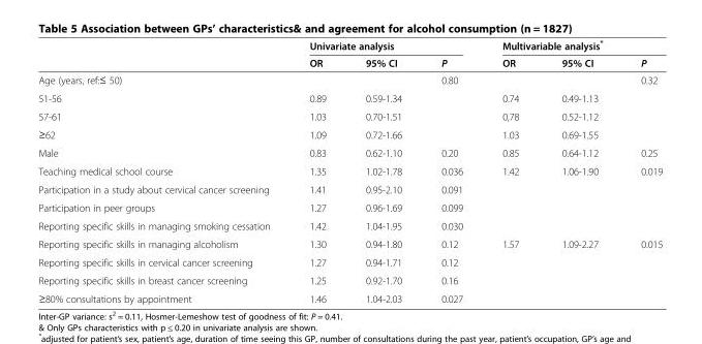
<table><thead><tr><td rowspan="2"></td><td colspan="3">Univariate analysis</td><td colspan="3">Multivariable analysis*</td></tr><tr><td>OR</td><td>95% CI</td><td>P</td><td>OR</td><td>95% CI</td><td>P</td></tr></thead><tbody><tr><td>Age (years, ref:≤ 50)</td><td></td><td></td><td>0.80</td><td></td><td></td><td>0.32</td></tr><tr><td>51-56</td><td>0.89</td><td>0.59-1.34</td><td></td><td>0.74</td><td>0.49-1.13</td><td></td></tr><tr><td>57-61</td><td>1.03</td><td>0.70-1.51</td><td></td><td>0,78</td><td>0.52-1.12</td><td></td></tr><tr><td>≥62</td><td>1.09</td><td>0.72-1.66</td><td></td><td>1.03</td><td>0.69-1.55</td><td></td></tr><tr><td>Male</td><td>0.83</td><td>0.62-1.10</td><td>0.20</td><td>0.85</td><td>0.64-1.12</td><td>0.25</td></tr><tr><td>Teaching medical school course</td><td>1.35</td><td>1.02-1.78</td><td>0.036</td><td>1.42</td><td>1.06-1.90</td><td>0.019</td></tr><tr><td>Participation in a study about cervical cancer screening</td><td>1.41</td><td>0.95-2.10</td><td>0.091</td><td></td><td></td><td></td></tr><tr><td>Participation in peer groups</td><td>1.27</td><td>0.96-1.69</td><td>0.099</td><td></td><td></td><td></td></tr><tr><td>Reporting specific skills in managing smoking cessation</td><td>1.42</td><td>1.04-1.95</td><td>0.030</td><td></td><td></td><td></td></tr><tr><td>Reporting specific skills in managing alcoholism</td><td>1.30</td><td>0.94-1.80</td><td>0.12</td><td>1.57</td><td>1.09-2.27</td><td>0.015</td></tr><tr><td>Reporting specific skills in cervical cancer screening</td><td>1.27</td><td>0.94-1.71</td><td>0.12</td><td></td><td></td><td></td></tr><tr><td>Reporting specific skills in breast cancer screening</td><td>1.25</td><td>0.92-1.70</td><td>0.16</td><td></td><td></td><td></td></tr><tr><td>≥80% consultations by appointment</td><td>1.46</td><td>1.04-2.03</td><td>0.027</td><td></td><td></td><td></td></tr></tbody></table>